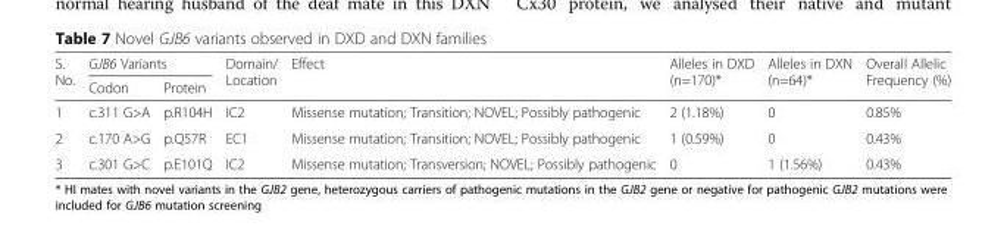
<table><thead><tr><td rowspan="2">S. No.</td><td colspan="2">GJB6 Variants</td><td rowspan="2">Domain/ Location</td><td rowspan="2">Effect</td><td rowspan="2">Alleles in DXD (n=170)*</td><td rowspan="2">Alleles in DXN (n=64)*</td><td rowspan="2">Overall Allelic Frequency (%)</td></tr><tr><td>Codon</td><td>Protein</td></tr></thead><tbody><tr><td>1</td><td>c.311 G&gt;A</td><td>p.R104H</td><td>IC2</td><td>Missense mutation; Transition; NOVEL; Possibly pathogenic</td><td>2 (1.18%)</td><td>0</td><td>0.85%</td></tr><tr><td>2</td><td>c.170 A&gt;G</td><td>p.Q57R</td><td>EC1</td><td>Missense mutation; Transition; NOVEL; Possibly pathogenic</td><td>1 (0.59%)</td><td>0</td><td>0.43%</td></tr><tr><td>3</td><td>c.301 G&gt;C</td><td>p.E101Q</td><td>IC2</td><td>Missense mutation; Transversion; NOVEL; Possibly pathogenic</td><td>0</td><td>1 (1.56%)</td><td>0.43%</td></tr></tbody></table>